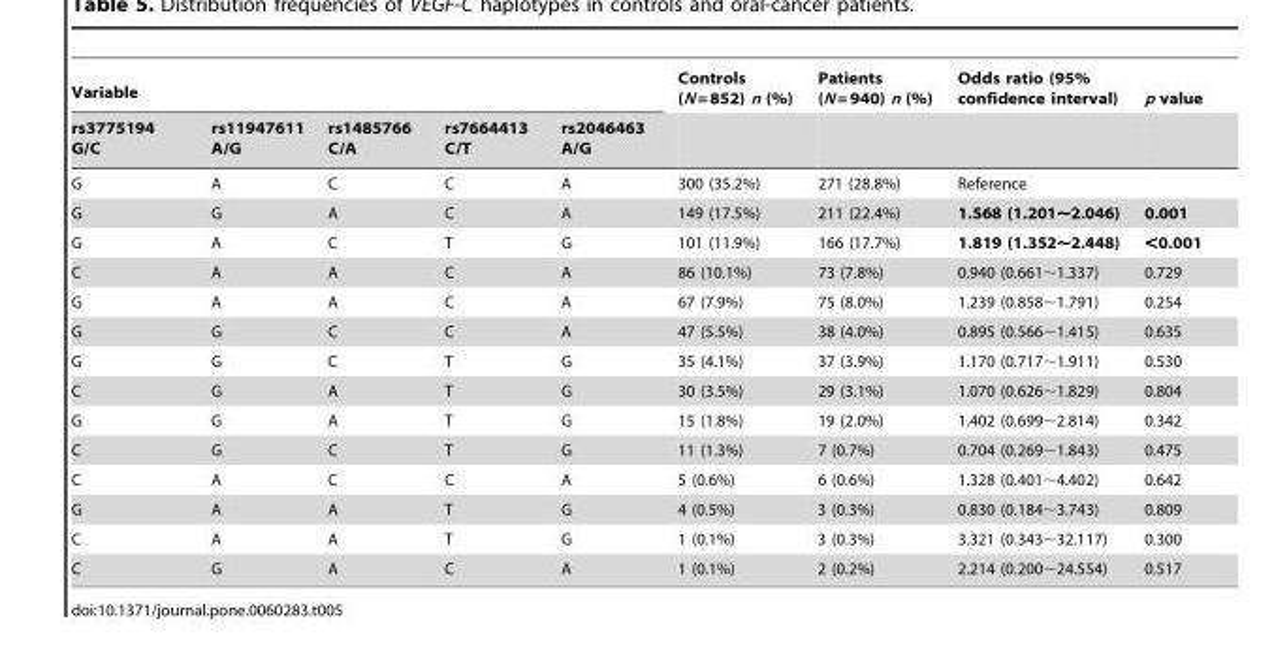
<table><thead><tr><td colspan="5">Variable</td><td rowspan="2">Controls (N = 852) n (%)</td><td rowspan="2">Patients (N = 940) n (%)</td><td rowspan="2">Odds ratio (95% confidence interval)</td><td rowspan="2">p value</td></tr><tr><td>rs3775194 G/C</td><td>rs11947611 A/G</td><td>rs1485766 C/A</td><td>rs7664413 C/T</td><td>rs2046463 A/G</td></tr></thead><tbody><tr><td>G</td><td>A</td><td>C</td><td>C</td><td>A</td><td>300 (35.2%)</td><td>271 (28.8%)</td><td>Reference</td><td></td></tr><tr><td>G</td><td>G</td><td>A</td><td>C</td><td>A</td><td>149 (17.5%)</td><td>211 (22.4%)</td><td>1.568 (1.201∼2.046)</td><td>0.001</td></tr><tr><td>G</td><td>A</td><td>C</td><td>T</td><td>G</td><td>101 (11.9%)</td><td>166 (17.7%)</td><td>1.819 (1.352∼2.448)</td><td>&lt;0.001</td></tr><tr><td>C</td><td>A</td><td>A</td><td>C</td><td>A</td><td>86 (10.1%)</td><td>73 (7.8%)</td><td>0.940 (0.661∼1.337)</td><td>0.729</td></tr><tr><td>G</td><td>A</td><td>A</td><td>C</td><td>A</td><td>67 (7.9%)</td><td>75 (8.0%)</td><td>1.239 (0.858∼1.791)</td><td>0.254</td></tr><tr><td>G</td><td>G</td><td>C</td><td>C</td><td>A</td><td>47 (5.5%)</td><td>38 (4.0%)</td><td>0.895 (0.566∼1.415)</td><td>0.635</td></tr><tr><td>G</td><td>G</td><td>C</td><td>T</td><td>G</td><td>35 (4.1%)</td><td>37 (3.9%)</td><td>1.170 (0.717∼1.911)</td><td>0.530</td></tr><tr><td>C</td><td>G</td><td>A</td><td>T</td><td>G</td><td>30 (3.5%)</td><td>29 (3.1%)</td><td>1.070 (0.626∼1.829)</td><td>0.804</td></tr><tr><td>G</td><td>G</td><td>A</td><td>T</td><td>G</td><td>15 (1.8%)</td><td>19 (2.0%)</td><td>1.402 (0.699∼2.814)</td><td>0.342</td></tr><tr><td>C</td><td>G</td><td>C</td><td>T</td><td>G</td><td>11 (1.3%)</td><td>7 (0.7%)</td><td>0.704 (0.269∼1.843)</td><td>0.475</td></tr><tr><td>C</td><td>A</td><td>C</td><td>C</td><td>A</td><td>5 (0.6%)</td><td>6 (0.6%)</td><td>1.328 (0.401∼4.402)</td><td>0.642</td></tr><tr><td>G</td><td>A</td><td>A</td><td>T</td><td>G</td><td>4 (0.5%)</td><td>3 (0.3%)</td><td>0.830 (0.184∼3.743)</td><td>0.809</td></tr><tr><td>C</td><td>A</td><td>A</td><td>T</td><td>G</td><td>1 (0.1%)</td><td>3 (0.3%)</td><td>3.321 (0.343∼32.117)</td><td>0.300</td></tr><tr><td>C</td><td>G</td><td>A</td><td>C</td><td>A</td><td>1 (0.1%)</td><td>2 (0.2%)</td><td>2.214 (0.200∼24.554)</td><td>0.517</td></tr></tbody></table>